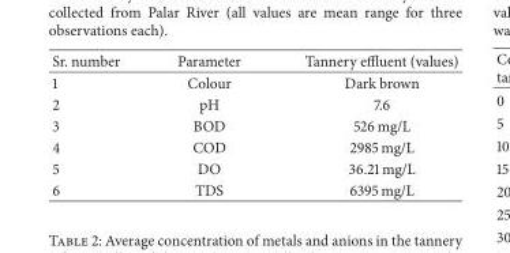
<table><thead><tr><td>Sr. number</td><td>Parameter</td><td>Tannery effluent (values)</td></tr></thead><tbody><tr><td>1</td><td>Colour</td><td>Dark brown</td></tr><tr><td>2</td><td>pH</td><td>7.6</td></tr><tr><td>3</td><td>BOD</td><td>526 mg/L</td></tr><tr><td>4</td><td>COD</td><td>2985 mg/L</td></tr><tr><td>5</td><td>DO</td><td>36.21 mg/L</td></tr><tr><td>6</td><td>TDS</td><td>6395 mg/L</td></tr></tbody></table>